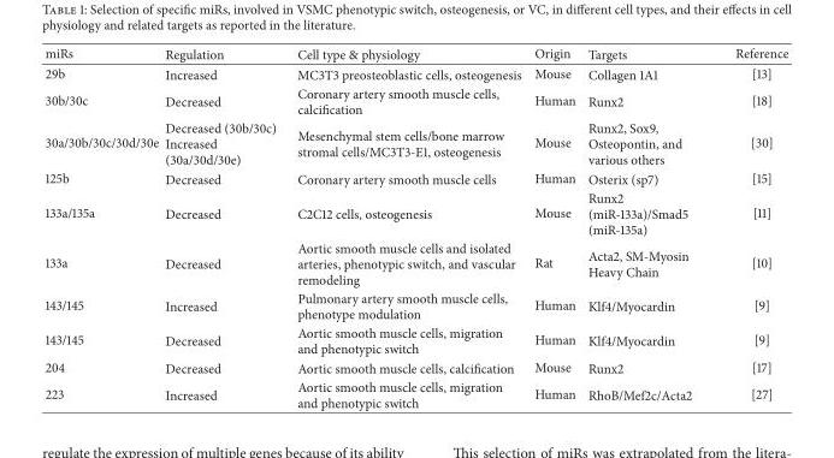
<table><thead><tr><td>miRs</td><td>Regulation</td><td>Cell type &amp; physiology</td><td>Origin</td><td>Targets</td><td>Reference</td></tr></thead><tbody><tr><td>29b</td><td>Increased</td><td>MC3T3 preosteoblastic cells, osteogenesis</td><td>Mouse</td><td>Collagen 1A1</td><td>[13]</td></tr><tr><td>30b/30c</td><td>Decreased</td><td>Coronary artery smooth muscle cells, calcification</td><td>Human</td><td>Runx2</td><td>[18]</td></tr><tr><td>30a/30b/30c/30d/30e</td><td>Decreased (30b/30c) Increased (30a/30d/30e)</td><td>Mesenchymal stem cells/bone marrow stromal cells/MC3T3-E1, osteogenesis</td><td>Mouse</td><td>Runx2, Sox9, Osteopontin, and various others</td><td>[30]</td></tr><tr><td>125b</td><td>Decreased</td><td>Coronary artery smooth muscle cells</td><td>Human</td><td>Osterix (sp7)</td><td>[15]</td></tr><tr><td>133a/135a</td><td>Decreased</td><td>C2C12 cells, osteogenesis</td><td>Mouse</td><td>Runx2 (miR-133a)/Smad5 (miR-135a)</td><td>[11]</td></tr><tr><td>133a</td><td>Decreased</td><td>Aortic smooth muscle cells and isolated arteries, phenotypic switch, and vascular remodeling</td><td>Rat</td><td>Acta2, SM-Myosin Heavy Chain</td><td>[10]</td></tr><tr><td>143/145</td><td>Increased</td><td>Pulmonary artery smooth muscle cells, phenotype modulation</td><td>Human</td><td>Klf4/Myocardin</td><td>[9]</td></tr><tr><td>143/145</td><td>Decreased</td><td>Aortic smooth muscle cells, migration and phenotypic switch</td><td>Human</td><td>Klf4/Myocardin</td><td>[9]</td></tr><tr><td>204</td><td>Decreased</td><td>Aortic smooth muscle cells, calcification</td><td>Mouse</td><td>Runx2</td><td>[17]</td></tr><tr><td>223</td><td>Increased</td><td>Aortic smooth muscle cells, migration and phenotypic switch</td><td>Human</td><td>RhoB/Mef2c/Acta2</td><td>[27]</td></tr></tbody></table>